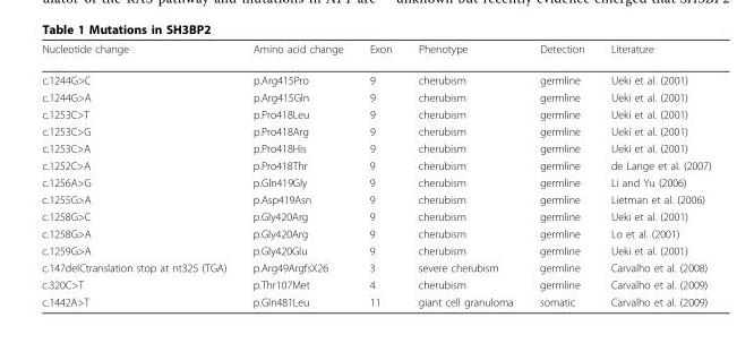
<table><thead><tr><td>Nucleotide change</td><td>Amino acid change</td><td>Exon</td><td>Phenotype</td><td>Detection</td><td>Literature</td></tr></thead><tbody><tr><td>c.1244G&gt;C</td><td>p.Arg415Pro</td><td>9</td><td>cherubism</td><td>germline</td><td>Ueki et al. (2001)</td></tr><tr><td>c.1244G&gt;A</td><td>p.Arg415Gln</td><td>9</td><td>cherubism</td><td>germline</td><td>Ueki et al. (2001)</td></tr><tr><td>c.1253C&gt;T</td><td>p.Pro418Leu</td><td>9</td><td>cherubism</td><td>germline</td><td>Ueki et al. (2001)</td></tr><tr><td>c.1253C&gt;G</td><td>p.Pro418Arg</td><td>9</td><td>cherubism</td><td>germline</td><td>Ueki et al. (2001)</td></tr><tr><td>c.1253C&gt;A</td><td>p.Pro418His</td><td>9</td><td>cherubism</td><td>germline</td><td>Ueki et al. (2001)</td></tr><tr><td>c.1252C&gt;A</td><td>p.Pro418Thr</td><td>9</td><td>cherubism</td><td>germline</td><td>de Lange et al. (2007)</td></tr><tr><td>c.1256A&gt;G</td><td>p.Gln419Gly</td><td>9</td><td>cherubism</td><td>germline</td><td>Li and Yu (2006)</td></tr><tr><td>c.1255G&gt;A</td><td>p.Asp419Asn</td><td>9</td><td>cherubism</td><td>germline</td><td>Lietman et al. (2006)</td></tr><tr><td>c.1258G&gt;C</td><td>p.Gly420Arg</td><td>9</td><td>cherubism</td><td>germline</td><td>Ueki et al. (2001)</td></tr><tr><td>c.1258G&gt;A</td><td>p.Gly420Arg</td><td>9</td><td>cherubism</td><td>germline</td><td>Lo et al. (2001)</td></tr><tr><td>c.1259G&gt;A</td><td>p.Gly420Glu</td><td>9</td><td>cherubism</td><td>germline</td><td>Ueki et al. (2001)</td></tr><tr><td>c.147delCtranslation stop at nt325 (TGA)</td><td>p.Arg49ArgfsX26</td><td>3</td><td>severe cherubism</td><td>germline</td><td>Carvalho et al. (2008)</td></tr><tr><td>c.320C&gt;T</td><td>p.Thr107Met</td><td>4</td><td>cherubism</td><td>germline</td><td>Carvalho et al. (2009)</td></tr><tr><td>c.1442A&gt;T</td><td>p.Gln481Leu</td><td>11</td><td>giant cell granuloma</td><td>somatic</td><td>Carvalho et al. (2009)</td></tr></tbody></table>